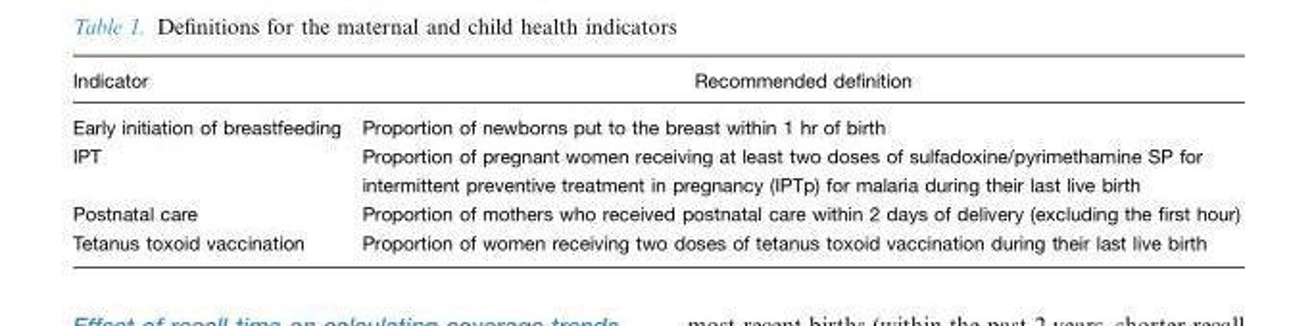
<table><thead><tr><td>Indicator</td><td>Recommended definition</td></tr></thead><tbody><tr><td>Early initiation of breastfeeding</td><td>Proportion of newborns put to the breast within 1 hr of birth</td></tr><tr><td>IPT</td><td>Proportion of pregnant women receiving at least two doses of sulfadoxine/pyrimethamine SP for intermittent preventive treatment in pregnancy (IPTp) for malaria during their last live birth</td></tr><tr><td>Postnatal care</td><td>Proportion of mothers who received postnatal care within 2 days of delivery (excluding the first hour)</td></tr><tr><td>Tetanus toxoid vaccination</td><td>Proportion of women receiving two doses of tetanus toxoid vaccination during their last live birth</td></tr></tbody></table>